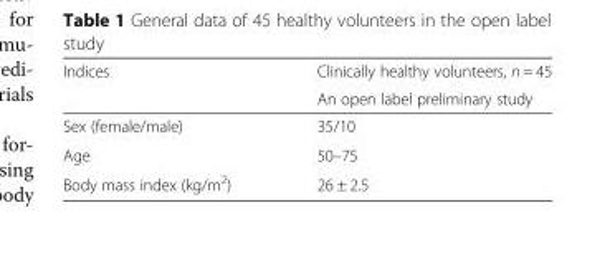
<table><thead><tr><td rowspan="2">Indices</td><td rowspan="2">Clinically healthy volunteers, n = 45 An open label preliminary study</td></tr><tr></tr></thead><tbody><tr><td>Sex (female/male)</td><td>35/10</td></tr><tr><td>Age</td><td>50–75</td></tr><tr><td>Body mass index (kg/m<sup>2</sup>)</td><td>26 ± 2.5</td></tr></tbody></table>